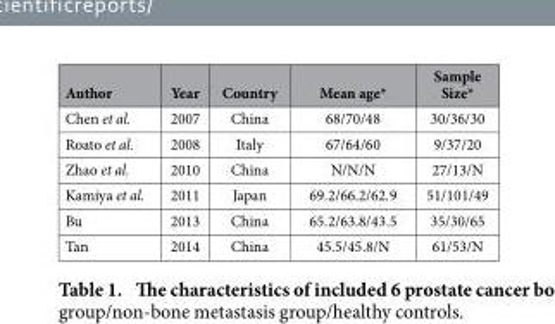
<table><thead><tr><td>Author</td><td>Year</td><td>Country</td><td>Mean age*</td><td>Sample Size*</td></tr></thead><tbody><tr><td>Chen et al.</td><td>2007</td><td>China</td><td>68/70/48</td><td>30/36/30</td></tr><tr><td>Roato et al.</td><td>2008</td><td>Italy</td><td>67/64/60</td><td>9/37/20</td></tr><tr><td>Zhao et al.</td><td>2010</td><td>China</td><td>N/N/N</td><td>27/13/N</td></tr><tr><td>Kamiya et al.</td><td>2011</td><td>Japan</td><td>69.2/66.2/62.9</td><td>51/101/49</td></tr><tr><td>Bu</td><td>2013</td><td>China</td><td>65.2/63.8/43.5</td><td>35/30/65</td></tr><tr><td>Tan</td><td>2014</td><td>China</td><td>45.5/45.8/N</td><td>61/53/N</td></tr></tbody></table>